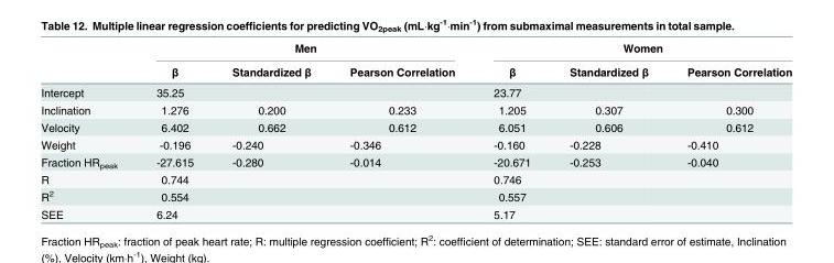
<table><thead><tr><td rowspan="2"></td><td colspan="3">Men</td><td colspan="3">Women</td></tr><tr><td>β</td><td>Standardized β</td><td>Pearson Correlation</td><td>β</td><td>Standardized β</td><td>Pearson Correlation</td></tr></thead><tbody><tr><td>Intercept</td><td>35.25</td><td></td><td></td><td>23.77</td><td></td><td></td></tr><tr><td>Inclination</td><td>1.276</td><td>0.200</td><td>0.233</td><td>1.205</td><td>0.307</td><td>0.300</td></tr><tr><td>Velocity</td><td>6.402</td><td>0.662</td><td>0.612</td><td>6.051</td><td>0.606</td><td>0.612</td></tr><tr><td>Weight</td><td>-0.196</td><td>-0.240</td><td>-0.346</td><td>-0.160</td><td>-0.228</td><td>-0.410</td></tr><tr><td>Fraction HR<sub>peak</sub></td><td>-27.615</td><td>-0.280</td><td>-0.014</td><td>-20.671</td><td>-0.253</td><td>-0.040</td></tr><tr><td>R</td><td>0.744</td><td></td><td></td><td>0.746</td><td></td><td></td></tr><tr><td>R<sup>2</sup></td><td>0.554</td><td></td><td></td><td>0.557</td><td></td><td></td></tr><tr><td>SEE</td><td>6.24</td><td></td><td></td><td>5.17</td><td></td><td></td></tr></tbody></table>